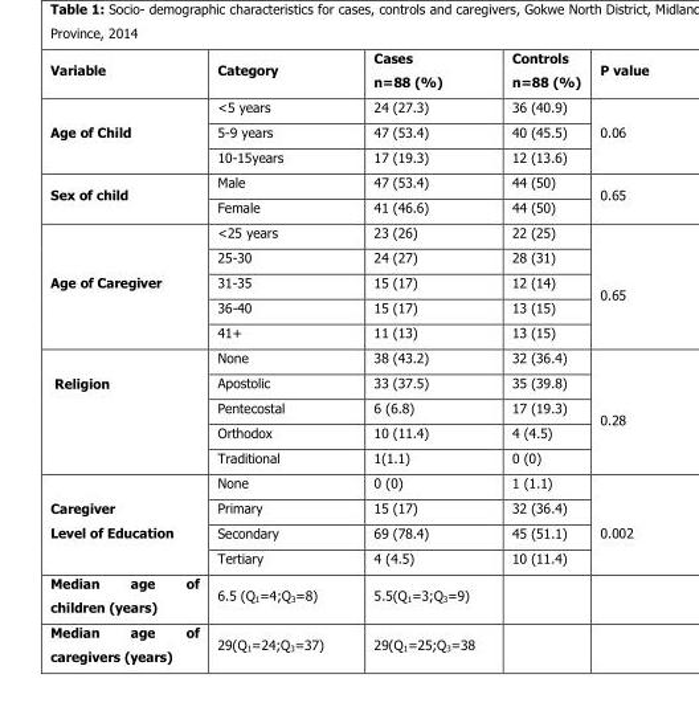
<table><thead><tr><td>Variable</td><td>Category</td><td>Cases n=88 (%)</td><td>Controls n=88 (%)</td><td>P value</td></tr></thead><tbody><tr><td rowspan="3">Age of Child</td><td>&lt;5 years</td><td>24 (27.3)</td><td>36 (40.9)</td><td rowspan="3">0.06</td></tr><tr><td>5-9 years</td><td>47 (53.4)</td><td>40 (45.5)</td></tr><tr><td>10-15years</td><td>17 (19.3)</td><td>12 (13.6)</td></tr><tr><td rowspan="2">Sex of child</td><td>Male</td><td>47 (53.4)</td><td>44 (50)</td><td rowspan="2">0.65</td></tr><tr><td>Female</td><td>41 (46.6)</td><td>44 (50)</td></tr><tr><td rowspan="5">Age of Caregiver</td><td>&lt;25 years</td><td>23 (26)</td><td>22 (25)</td><td rowspan="5">0.65</td></tr><tr><td>25-30</td><td>24 (27)</td><td>28 (31)</td></tr><tr><td>31-35</td><td>15 (17)</td><td>12 (14)</td></tr><tr><td>36-40</td><td>15 (17)</td><td>13 (15)</td></tr><tr><td>41+</td><td>11 (13)</td><td>13 (15)</td></tr><tr><td rowspan="5">Religion</td><td>None</td><td>38 (43.2)</td><td>32 (36.4)</td><td rowspan="5">0.28</td></tr><tr><td>Apostolic</td><td>33 (37.5)</td><td>35 (39.8)</td></tr><tr><td>Pentecostal</td><td>6 (6.8)</td><td>17 (19.3)</td></tr><tr><td>Orthodox</td><td>10 (11.4)</td><td>4 (4.5)</td></tr><tr><td>Traditional</td><td>1(1.1)</td><td>0 (0)</td></tr><tr><td rowspan="4">Caregiver Level of Education</td><td>None</td><td>0 (0)</td><td>1 (1.1)</td><td rowspan="4">0.002</td></tr><tr><td>Primary</td><td>15 (17)</td><td>32 (36.4)</td></tr><tr><td>Secondary</td><td>69 (78.4)</td><td>45 (51.1)</td></tr><tr><td>Tertiary</td><td>4 (4.5)</td><td>10 (11.4)</td></tr><tr><td>Median age of children (years)</td><td>6.5 (Q<sub>1</sub>=4;Q<sub>3</sub>=8)</td><td>5.5(Q<sub>1</sub>=3;Q<sub>3</sub>=9)</td><td></td><td></td></tr><tr><td>Median age of caregivers (years)</td><td>29(Q<sub>1</sub>=24;Q<sub>3</sub>=37)</td><td>29(Q<sub>1</sub>=25;Q<sub>3</sub>=38</td><td></td><td></td></tr></tbody></table>